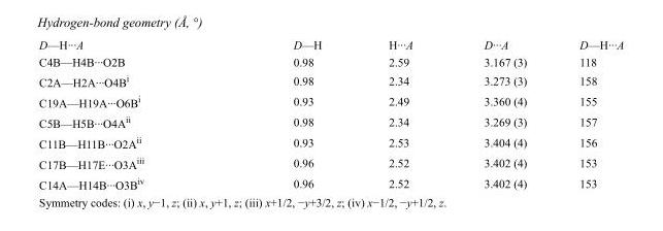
<table><tbody><tr><td>D—H···A</td><td>D—H</td><td>H···A</td><td>D···A</td><td>D—H···A</td></tr><tr><td>C4B—H4B···O2B</td><td>0.98</td><td>2.59</td><td>3.167 (3)</td><td>118</td></tr><tr><td>C2A—H2A···O4B<sup>i</sup></td><td>0.98</td><td>2.34</td><td>3.273 (3)</td><td>158</td></tr><tr><td>C19A—H19A···O6B<sup>i</sup></td><td>0.93</td><td>2.49</td><td>3.360 (4)</td><td>155</td></tr><tr><td>C5B—H5B···O4A<sup>ii</sup></td><td>0.98</td><td>2.34</td><td>3.269 (3)</td><td>157</td></tr><tr><td>C11B—H11B···O2A<sup>ii</sup></td><td>0.93</td><td>2.53</td><td>3.404 (4)</td><td>156</td></tr><tr><td>C17B—H17E···O3A<sup>iii</sup></td><td>0.96</td><td>2.52</td><td>3.402 (4)</td><td>153</td></tr><tr><td>C14A—H14B···O3B<sup>iv</sup></td><td>0.96</td><td>2.52</td><td>3.402 (4)</td><td>153</td></tr></tbody></table>